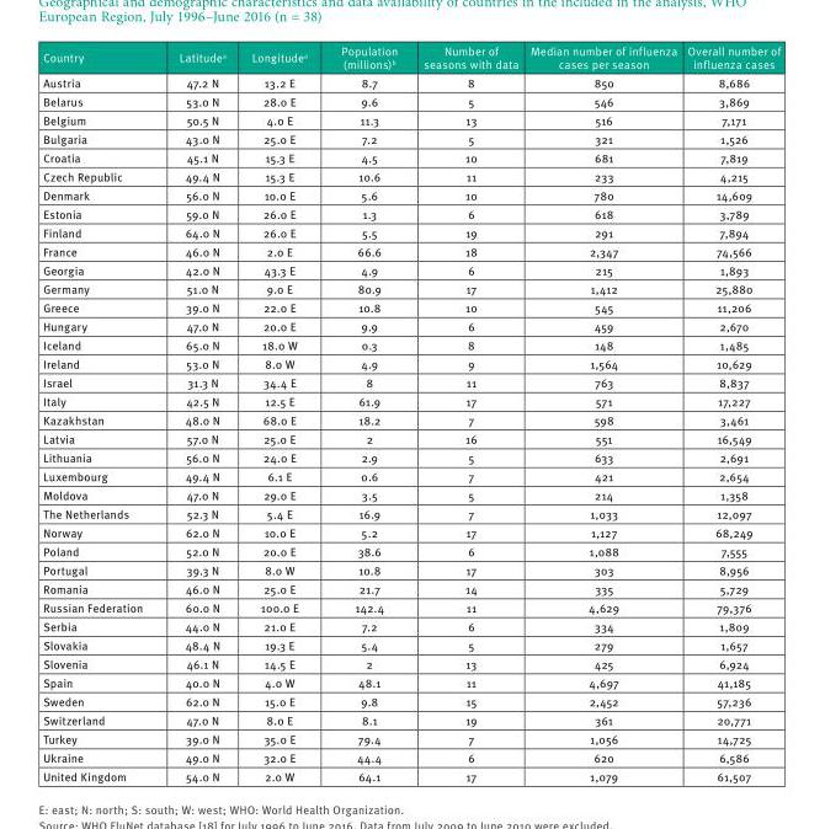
<table><thead><tr><td>Country</td><td>Latitude<sup>a</sup></td><td>Longitude<sup>a</sup></td><td>Population (millions)<sup>b</sup></td><td>Number of seasons with data</td><td>Median number of influenza cases per season</td><td>Overall number of influenza cases</td></tr></thead><tbody><tr><td>Austria</td><td>47.2 N</td><td>13.2 E</td><td>8.7</td><td>8</td><td>850</td><td>8,686</td></tr><tr><td>Belarus</td><td>53.0 N</td><td>28.0 E</td><td>9.6</td><td>5</td><td>546</td><td>3,869</td></tr><tr><td>Belgium</td><td>50.5 N</td><td>4.0 E</td><td>11.3</td><td>13</td><td>516</td><td>7,171</td></tr><tr><td>Bulgaria</td><td>43.0 N</td><td>25.0 E</td><td>7.2</td><td>5</td><td>321</td><td>1,526</td></tr><tr><td>Croatia</td><td>45.1 N</td><td>15.3 E</td><td>4.5</td><td>10</td><td>681</td><td>7,819</td></tr><tr><td>Czech Republic</td><td>49.4 N</td><td>15.3 E</td><td>10.6</td><td>11</td><td>233</td><td>4,215</td></tr><tr><td>Denmark</td><td>56.0 N</td><td>10.0 E</td><td>5.6</td><td>10</td><td>780</td><td>14,609</td></tr><tr><td>Estonia</td><td>59.0 N</td><td>26.0 E</td><td>1.3</td><td>6</td><td>618</td><td>3,789</td></tr><tr><td>Finland</td><td>64.0 N</td><td>26.0 E</td><td>5.5</td><td>19</td><td>291</td><td>7,894</td></tr><tr><td>France</td><td>46.0 N</td><td>2.0 E</td><td>66.6</td><td>18</td><td>2,347</td><td>74,566</td></tr><tr><td>Georgia</td><td>42.0 N</td><td>43.3 E</td><td>4.9</td><td>6</td><td>215</td><td>1,893</td></tr><tr><td>Germany</td><td>51.0 N</td><td>9.0 E</td><td>80.9</td><td>17</td><td>1,412</td><td>25,880</td></tr><tr><td>Greece</td><td>39.0 N</td><td>22.0 E</td><td>10.8</td><td>10</td><td>545</td><td>11,206</td></tr><tr><td>Hungary</td><td>47.0 N</td><td>20.0 E</td><td>9.9</td><td>6</td><td>459</td><td>2,670</td></tr><tr><td>Iceland</td><td>65.0 N</td><td>18.0 W</td><td>0.3</td><td>8</td><td>148</td><td>1,485</td></tr><tr><td>Ireland</td><td>53.0 N</td><td>8.0 W</td><td>4.9</td><td>9</td><td>1,564</td><td>10,629</td></tr><tr><td>Israel</td><td>31.3 N</td><td>34.4 E</td><td>8</td><td>11</td><td>763</td><td>8,837</td></tr><tr><td>Italy</td><td>42.5 N</td><td>12.5 E</td><td>61.9</td><td>17</td><td>571</td><td>17,227</td></tr><tr><td>Kazakhstan</td><td>48.0 N</td><td>68.0 E</td><td>18.2</td><td>7</td><td>598</td><td>3,461</td></tr><tr><td>Latvia</td><td>57.0 N</td><td>25.0 E</td><td>2</td><td>16</td><td>551</td><td>16,549</td></tr><tr><td>Lithuania</td><td>56.0 N</td><td>24.0 E</td><td>2.9</td><td>5</td><td>633</td><td>2,691</td></tr><tr><td>Luxembourg</td><td>49.4 N</td><td>6.1 E</td><td>0.6</td><td>7</td><td>421</td><td>2,654</td></tr><tr><td>Moldova</td><td>47.0 N</td><td>29.0 E</td><td>3.5</td><td>5</td><td>214</td><td>1,358</td></tr><tr><td>The Netherlands</td><td>52.3 N</td><td>5.4 E</td><td>16.9</td><td>7</td><td>1,033</td><td>12,097</td></tr><tr><td>Norway</td><td>62.0 N</td><td>10.0 E</td><td>5.2</td><td>17</td><td>1,127</td><td>68,249</td></tr><tr><td>Poland</td><td>52.0 N</td><td>20.0 E</td><td>38.6</td><td>6</td><td>1,088</td><td>7,555</td></tr><tr><td>Portugal</td><td>39.3 N</td><td>8.0 W</td><td>10.8</td><td>17</td><td>303</td><td>8,956</td></tr><tr><td>Romania</td><td>46.0 N</td><td>25.0 E</td><td>21.7</td><td>14</td><td>335</td><td>5,729</td></tr><tr><td>Russian Federation</td><td>60.0 N</td><td>100.0 E</td><td>142.4</td><td>11</td><td>4,629</td><td>79,376</td></tr><tr><td>Serbia</td><td>44.0 N</td><td>21.0 E</td><td>7.2</td><td>6</td><td>334</td><td>1,809</td></tr><tr><td>Slovakia</td><td>48.4 N</td><td>19.3 E</td><td>5.4</td><td>5</td><td>279</td><td>1,657</td></tr><tr><td>Slovenia</td><td>46.1 N</td><td>14.5 E</td><td>2</td><td>13</td><td>425</td><td>6,924</td></tr><tr><td>Spain</td><td>40.0 N</td><td>4.0 W</td><td>48.1</td><td>11</td><td>4,697</td><td>41,185</td></tr><tr><td>Sweden</td><td>62.0 N</td><td>15.0 E</td><td>9.8</td><td>15</td><td>2,452</td><td>57,236</td></tr><tr><td>Switzerland</td><td>47.0 N</td><td>8.0 E</td><td>8.1</td><td>19</td><td>361</td><td>20,771</td></tr><tr><td>Turkey</td><td>39.0 N</td><td>35.0 E</td><td>79.4</td><td>7</td><td>1,056</td><td>14,725</td></tr><tr><td>Ukraine</td><td>49.0 N</td><td>32.0 E</td><td>44.4</td><td>6</td><td>620</td><td>6,586</td></tr><tr><td>United Kingdom</td><td>54.0 N</td><td>2.0 W</td><td>64.1</td><td>17</td><td>1,079</td><td>61,507</td></tr></tbody></table>